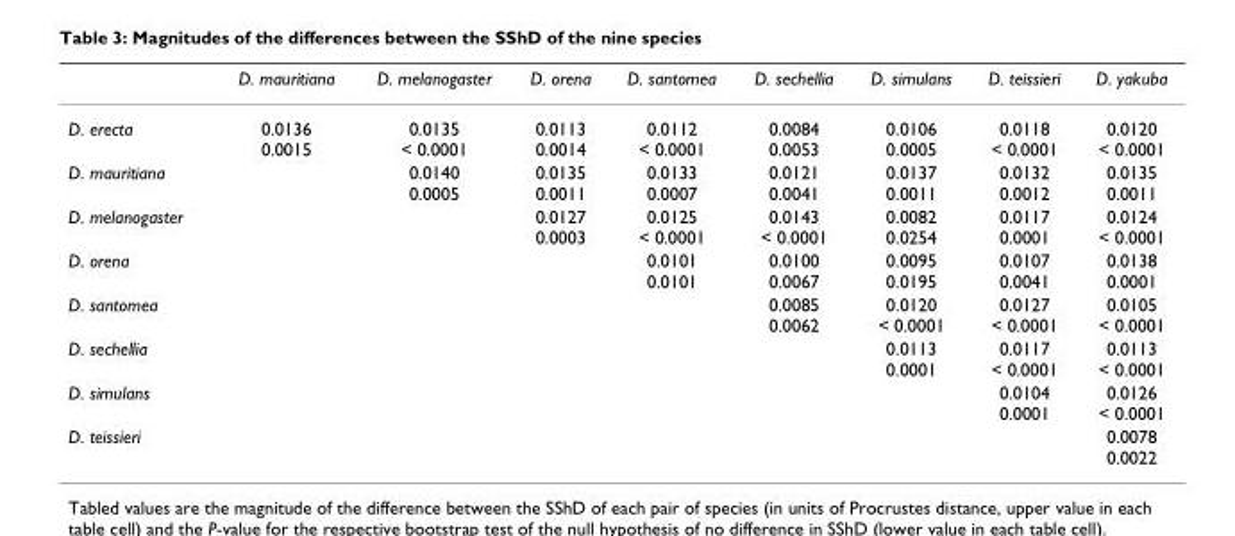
<table><thead><tr><td></td><td>D. mauritiana</td><td>D. melanogaster</td><td>D. orena</td><td>D. santomea</td><td>D. sechellia</td><td>D. simulans</td><td>D. teissieri</td><td>D. yakuba</td></tr></thead><tbody><tr><td>D. erecta</td><td>0.0136 0.0015</td><td>0.0135 &lt; 0.0001</td><td>0.0113 0.0014</td><td>0.0112 &lt; 0.0001</td><td>0.0084 0.0053</td><td>0.0106 0.0005</td><td>0.0118 &lt; 0.0001</td><td>0.0120 &lt; 0.0001</td></tr><tr><td>D. mauritiana</td><td></td><td>0.0140 0.0005</td><td>0.0135 0.0011</td><td>0.0133 0.0007</td><td>0.0121 0.0041</td><td>0.0137 0.0011</td><td>0.0132 0.0012</td><td>0.0135 0.0011</td></tr><tr><td>D. melanogaster</td><td></td><td></td><td>0.0127 0.0003</td><td>0.0125 &lt; 0.0001</td><td>0.0143 &lt; 0.0001</td><td>0.0082 0.0254</td><td>0.0117 0.0001</td><td>0.0124 &lt; 0.0001</td></tr><tr><td>D. orena</td><td></td><td></td><td></td><td>0.0101 0.0101</td><td>0.0100 0.0067</td><td>0.0095 0.0195</td><td>0.0107 0.0041</td><td>0.0138 0.0001</td></tr><tr><td>D. santomea</td><td></td><td></td><td></td><td></td><td>0.0085 0.0062</td><td>0.0120 &lt; 0.0001</td><td>0.0127 &lt; 0.0001</td><td>0.0105 &lt; 0.0001</td></tr><tr><td>D. sechellia</td><td></td><td></td><td></td><td></td><td></td><td>0.0113 0.0001</td><td>0.0117 &lt; 0.0001</td><td>0.0113 &lt; 0.0001</td></tr><tr><td>D. simulans</td><td></td><td></td><td></td><td></td><td></td><td></td><td>0.0104 0.0001</td><td>0.0126 &lt; 0.0001</td></tr><tr><td>D. teissieri</td><td></td><td></td><td></td><td></td><td></td><td></td><td></td><td>0.0078 0.0022</td></tr></tbody></table>